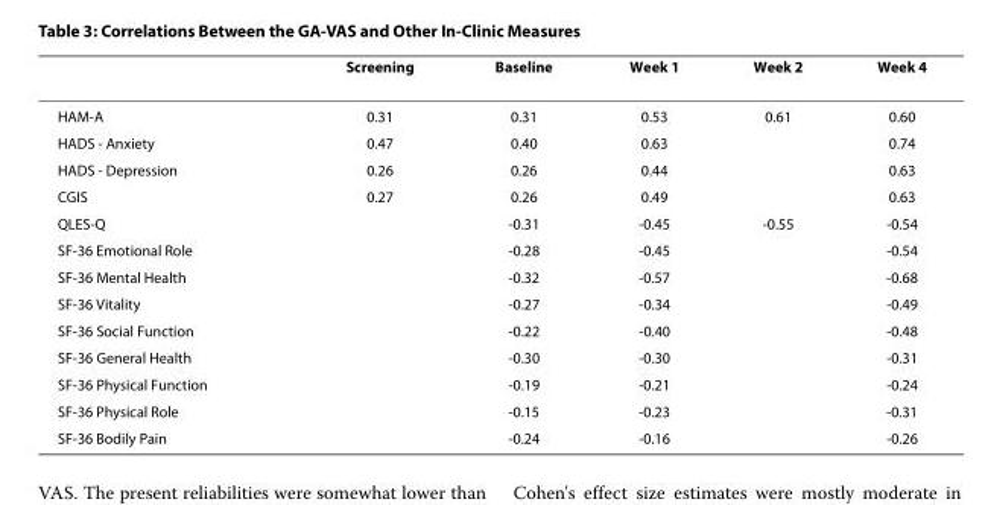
<table><thead><tr><td></td><td>Screening</td><td>Baseline</td><td>Week 1</td><td>Week 2</td><td>Week 4</td></tr></thead><tbody><tr><td>HAM-A</td><td>0.31</td><td>0.31</td><td>0.53</td><td>0.61</td><td>0.60</td></tr><tr><td>HADS - Anxiety</td><td>0.47</td><td>0.40</td><td>0.63</td><td></td><td>0.74</td></tr><tr><td>HADS - Depression</td><td>0.26</td><td>0.26</td><td>0.44</td><td></td><td>0.63</td></tr><tr><td>CGIS</td><td>0.27</td><td>0.26</td><td>0.49</td><td></td><td>0.63</td></tr><tr><td>QLES-Q</td><td></td><td>-0.31</td><td>-0.45</td><td>-0.55</td><td>-0.54</td></tr><tr><td>SF-36 Emotional Role</td><td></td><td>-0.28</td><td>-0.45</td><td></td><td>-0.54</td></tr><tr><td>SF-36 Mental Health</td><td></td><td>-0.32</td><td>-0.57</td><td></td><td>-0.68</td></tr><tr><td>SF-36 Vitality</td><td></td><td>-0.27</td><td>-0.34</td><td></td><td>-0.49</td></tr><tr><td>SF-36 Social Function</td><td></td><td>-0.22</td><td>-0.40</td><td></td><td>-0.48</td></tr><tr><td>SF-36 General Health</td><td></td><td>-0.30</td><td>-0.30</td><td></td><td>-0.31</td></tr><tr><td>SF-36 Physical Function</td><td></td><td>-0.19</td><td>-0.21</td><td></td><td>-0.24</td></tr><tr><td>SF-36 Physical Role</td><td></td><td>-0.15</td><td>-0.23</td><td></td><td>-0.31</td></tr><tr><td>SF-36 Bodily Pain</td><td></td><td>-0.24</td><td>-0.16</td><td></td><td>-0.26</td></tr></tbody></table>